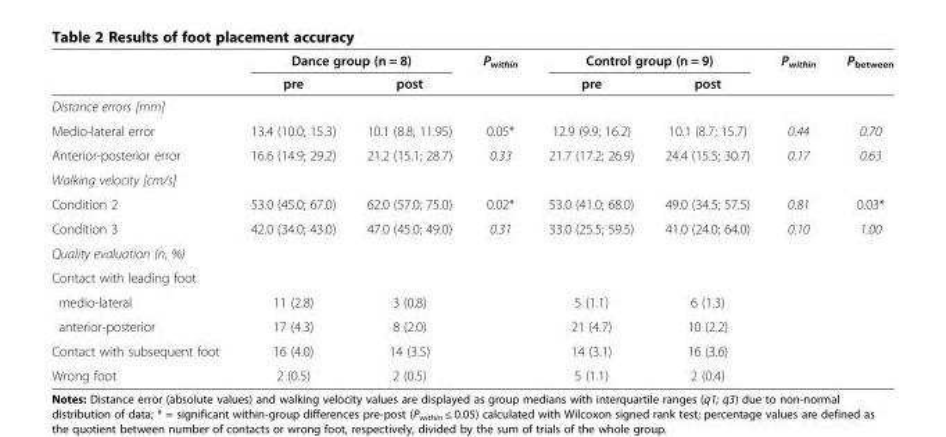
<table><thead><tr><td rowspan="2"></td><td colspan="2">Dance group (n = 8)</td><td rowspan="2">P<sub>within</sub></td><td colspan="2">Control group (n = 9)</td><td rowspan="2">P<sub>within</sub></td><td rowspan="2">P<sub>between</sub></td></tr><tr><td>pre</td><td>post</td><td>pre</td><td>post</td></tr></thead><tbody><tr><td colspan="8">Distance errors [mm]</td></tr><tr><td>Medio-lateral error</td><td>13.4 (10.0; 15.3)</td><td>10.1 (8.8; 11.95)</td><td>0.05*</td><td>12.9 (9.9; 16.2)</td><td>10.1 (8.7; 15.7)</td><td>0.44</td><td>0.70</td></tr><tr><td>Anterior-posterior error</td><td>16.6 (14.9; 29.2)</td><td>21.2 (15.1; 28.7)</td><td>0.33</td><td>21.7 (17.2; 26.9)</td><td>24.4 (15.5; 30.7)</td><td>0.17</td><td>0.63</td></tr><tr><td colspan="8">Walking velocity [cm/s]</td></tr><tr><td>Condition 2</td><td>53.0 (45.0; 67.0)</td><td>62.0 (57.0; 75.0)</td><td>0.02*</td><td>53.0 (41.0; 68.0)</td><td>49.0 (34.5; 57.5)</td><td>0.81</td><td>0.03*</td></tr><tr><td>Condition 3</td><td>42.0 (34.0; 43.0)</td><td>47.0 (45.0; 49.0)</td><td>0.31</td><td>33.0 (25.5; 59.5)</td><td>41.0 (24.0; 64.0)</td><td>0.10</td><td>1.00</td></tr><tr><td colspan="8">Quality evaluation (n, %)</td></tr><tr><td colspan="8">Contact with leading foot</td></tr><tr><td>medio-lateral</td><td>11 (2.8)</td><td>3 (0.8)</td><td></td><td>5 (1.1)</td><td>6 (1.3)</td><td></td><td></td></tr><tr><td>anterior-posterior</td><td>17 (4.3)</td><td>8 (2.0)</td><td></td><td>21 (4.7)</td><td>10 (2.2)</td><td></td><td></td></tr><tr><td>Contact with subsequent foot</td><td>16 (4.0)</td><td>14 (3.5)</td><td></td><td>14 (3.1)</td><td>16 (3.6)</td><td></td><td></td></tr><tr><td>Wrong foot</td><td>2 (0.5)</td><td>2 (0.5)</td><td></td><td>5 (1.1)</td><td>2 (0.4)</td><td></td><td></td></tr></tbody></table>